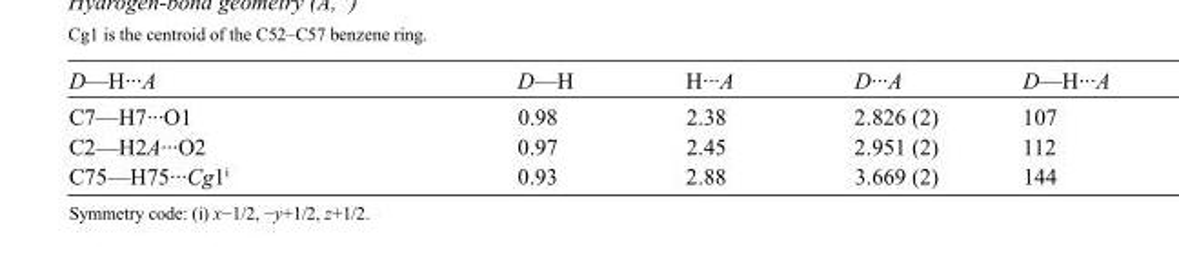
<table><tbody><tr><td>D—H···A</td><td>D—H</td><td>H···A</td><td>D···A</td><td>D—H···A</td></tr><tr><td>C7—H7···O1</td><td>0.98</td><td>2.38</td><td>2.826 (2)</td><td>107</td></tr><tr><td>C2—H2A···O2</td><td>0.97</td><td>2.45</td><td>2.951 (2)</td><td>112</td></tr><tr><td>C75—H75···Cg1<sup>i</sup></td><td>0.93</td><td>2.88</td><td>3.669 (2)</td><td>144</td></tr></tbody></table>